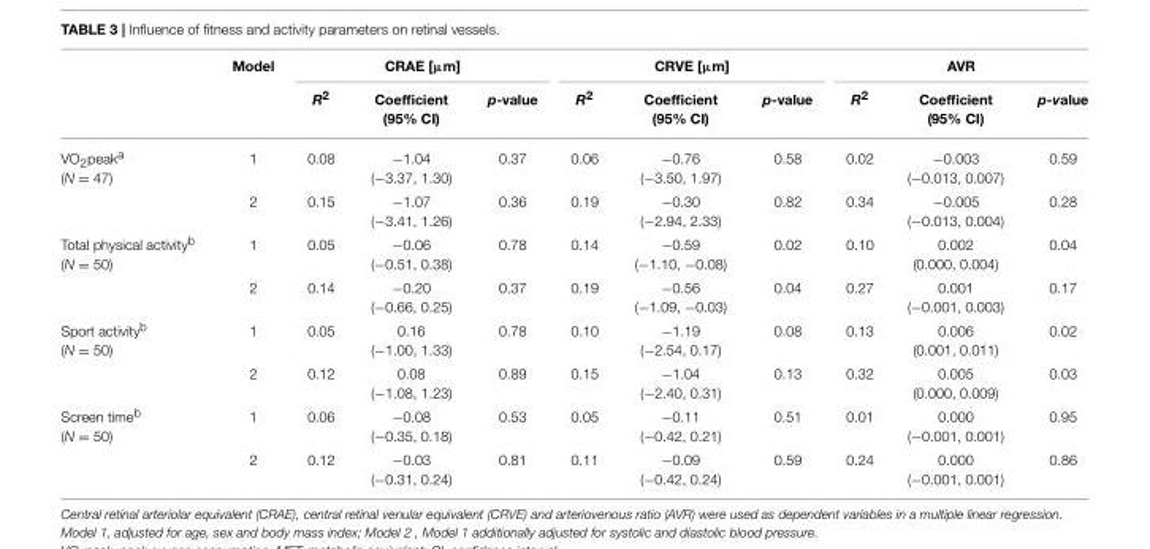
<table><thead><tr><td rowspan="2"></td><td rowspan="2">Model</td><td colspan="3">CRAE [µm]</td><td colspan="3">CRVE [µm]</td><td colspan="3">AVR</td></tr><tr><td>R<sup>2</sup></td><td>Coefficient (95% CI)</td><td>p-value</td><td>R<sup>2</sup></td><td>Coefficient (95% CI)</td><td>p-value</td><td>R<sup>2</sup></td><td>Coefficient (95% CI)</td><td>p-value</td></tr></thead><tbody><tr><td rowspan="2">VO<sub>2</sub>peak<sup>a</sup> (N = 47)</td><td>1</td><td>0.08</td><td>−1.04 (−3.37, 1.30)</td><td>0.37</td><td>0.06</td><td>−0.76 (−3.50, 1.97)</td><td>0.58</td><td>0.02</td><td>−0.003 (−0.013, 0.007)</td><td>0.59</td></tr><tr><td>2</td><td>0.15</td><td>−1.07 (−3.41, 1.26)</td><td>0.36</td><td>0.19</td><td>−0.30 (−2.94, 2.33)</td><td>0.82</td><td>0.34</td><td>−0.005 (−0.013, 0.004)</td><td>0.28</td></tr><tr><td rowspan="2">Total physical activity<sup>b</sup> (N = 50)</td><td>1</td><td>0.05</td><td>−0.06 (−0.51, 0.38)</td><td>0.78</td><td>0.14</td><td>−0.59 (−1.10, −0.08)</td><td>0.02</td><td>0.10</td><td>0.002 (0.000, 0.004)</td><td>0.04</td></tr><tr><td>2</td><td>0.14</td><td>−0.20 (−0.66, 0.25)</td><td>0.37</td><td>0.19</td><td>−0.56 (−1.09, −0.03)</td><td>0.04</td><td>0.27</td><td>0.001 (−0.001, 0.003)</td><td>0.17</td></tr><tr><td rowspan="2">Sport activity<sup>b</sup> (N = 50)</td><td>1</td><td>0.05</td><td>0.16 (−1.00, 1.33)</td><td>0.78</td><td>0.10</td><td>−1.19 (−2.54, 0.17)</td><td>0.08</td><td>0.13</td><td>0.006 (0.001, 0.011)</td><td>0.02</td></tr><tr><td>2</td><td>0.12</td><td>0.08 (−1.08, 1.23)</td><td>0.89</td><td>0.15</td><td>−1.04 (−2.40, 0.31)</td><td>0.13</td><td>0.32</td><td>0.005 (0.000, 0.009)</td><td>0.03</td></tr><tr><td rowspan="2">Screen time<sup>b</sup> (N = 50)</td><td>1</td><td>0.06</td><td>−0.08 (−0.35, 0.18)</td><td>0.53</td><td>0.05</td><td>−0.11 (−0.42, 0.21)</td><td>0.51</td><td>0.01</td><td>0.000 (−0.001, 0.001)</td><td>0.95</td></tr><tr><td>2</td><td>0.12</td><td>−0.03 (−0.31, 0.24)</td><td>0.81</td><td>0.11</td><td>−0.09 (−0.42, 0.24)</td><td>0.59</td><td>0.24</td><td>0.000 (−0.001, 0.001)</td><td>0.86</td></tr></tbody></table>